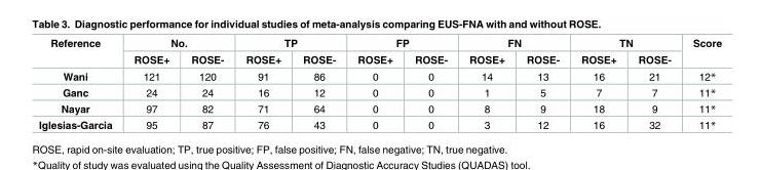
<table><thead><tr><td rowspan="2">Reference</td><td colspan="2">No.</td><td colspan="2">TP</td><td colspan="2">FP</td><td colspan="2">FN</td><td colspan="2">TN</td><td rowspan="2">Score</td></tr><tr><td>ROSE+</td><td>ROSE-</td><td>ROSE+</td><td>ROSE-</td><td>ROSE+</td><td>ROSE-</td><td>ROSE+</td><td>ROSE-</td><td>ROSE+</td><td>ROSE-</td></tr></thead><tbody><tr><td>Wani</td><td>121</td><td>120</td><td>91</td><td>86</td><td>0</td><td>0</td><td>14</td><td>13</td><td>16</td><td>21</td><td>12*</td></tr><tr><td>Ganc</td><td>24</td><td>24</td><td>16</td><td>12</td><td>0</td><td>0</td><td>1</td><td>5</td><td>7</td><td>7</td><td>11*</td></tr><tr><td>Nayar</td><td>97</td><td>82</td><td>71</td><td>64</td><td>0</td><td>0</td><td>8</td><td>9</td><td>18</td><td>9</td><td>11*</td></tr><tr><td>Iglesias-Garcia</td><td>95</td><td>87</td><td>76</td><td>43</td><td>0</td><td>0</td><td>3</td><td>12</td><td>16</td><td>32</td><td>11*</td></tr></tbody></table>